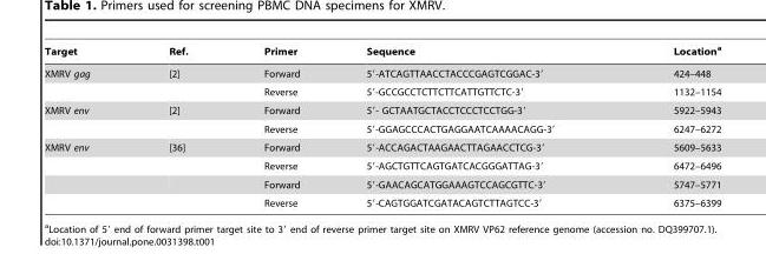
<table><thead><tr><td>Target</td><td>Ref.</td><td>Primer</td><td>Sequence</td><td>Location<sup>a</sup></td></tr></thead><tbody><tr><td rowspan="2">XMRV gag</td><td>[2]</td><td>Forward</td><td>5′-ATCAGTTAACCTACCCGAGTCGGAC-3′</td><td>424–448</td></tr><tr><td></td><td>Reverse</td><td>5′-GCCGCCTCTTCTTCATTGTTCTC-3′</td><td>1132–1154</td></tr><tr><td rowspan="2">XMRV env</td><td>[2]</td><td>Forward</td><td>5′- GCTAATGCTACCTCCCTCCTGG-3′</td><td>5922–5943</td></tr><tr><td></td><td>Reverse</td><td>5′-GGAGCCCACTGAGGAATCAAAACAGG-3′</td><td>6247–6272</td></tr><tr><td rowspan="4">XMRV env</td><td>[36]</td><td>Forward</td><td>5′-ACCAGACTAAGAACTTAGAACCTCG-3′</td><td>5609–5633</td></tr><tr><td></td><td>Reverse</td><td>5′-AGCTGTTCAGTGATCACGGGATTAG-3′</td><td>6472–6496</td></tr><tr><td></td><td>Forward</td><td>5′-GAACAGCATGGAAAGTCCAGCGTTC-3′</td><td>5747–5771</td></tr><tr><td></td><td>Reverse</td><td>5′-CAGTGGATCGATACAGTCTTAGTCC-3′</td><td>6375–6399</td></tr></tbody></table>